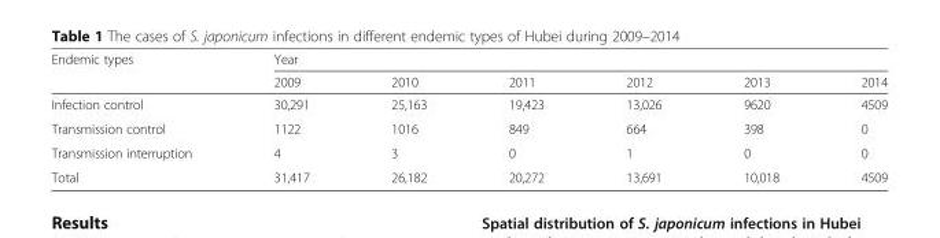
<table><thead><tr><td rowspan="2">Endemic types</td><td colspan="6">Year</td></tr><tr><td>2009</td><td>2010</td><td>2011</td><td>2012</td><td>2013</td><td>2014</td></tr></thead><tbody><tr><td>Infection control</td><td>30,291</td><td>25,163</td><td>19,423</td><td>13,026</td><td>9620</td><td>4509</td></tr><tr><td>Transmission control</td><td>1122</td><td>1016</td><td>849</td><td>664</td><td>398</td><td>0</td></tr><tr><td>Transmission interruption</td><td>4</td><td>3</td><td>0</td><td>1</td><td>0</td><td>0</td></tr><tr><td>Total</td><td>31,417</td><td>26,182</td><td>20,272</td><td>13,691</td><td>10,018</td><td>4509</td></tr></tbody></table>